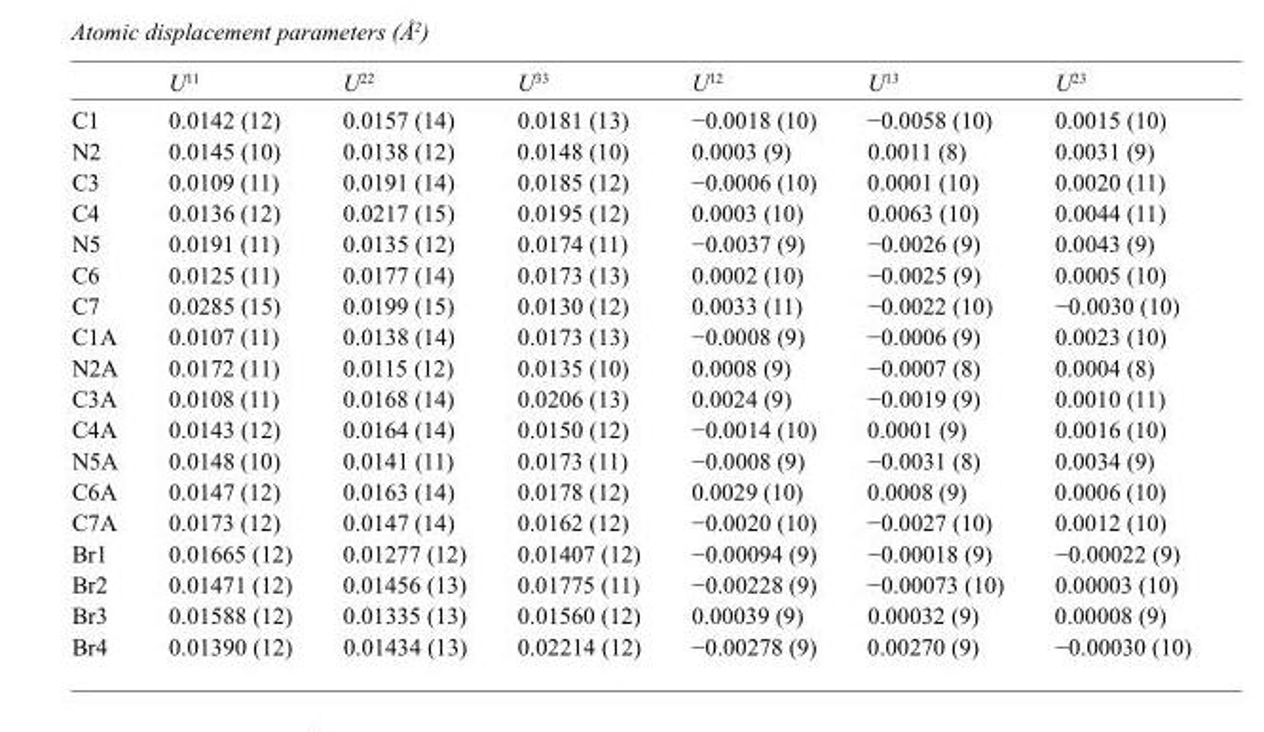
<table><thead><tr><td></td><td>U<sup>11</sup></td><td>U<sup>22</sup></td><td>U<sup>33</sup></td><td>U<sup>12</sup></td><td>U<sup>13</sup></td><td>U<sup>23</sup></td></tr></thead><tbody><tr><td>C1</td><td>0.0142 (12)</td><td>0.0157 (14)</td><td>0.0181 (13)</td><td>−0.0018 (10)</td><td>−0.0058 (10)</td><td>0.0015 (10)</td></tr><tr><td>N2</td><td>0.0145 (10)</td><td>0.0138 (12)</td><td>0.0148 (10)</td><td>0.0003 (9)</td><td>0.0011 (8)</td><td>0.0031 (9)</td></tr><tr><td>C3</td><td>0.0109 (11)</td><td>0.0191 (14)</td><td>0.0185 (12)</td><td>−0.0006 (10)</td><td>0.0001 (10)</td><td>0.0020 (11)</td></tr><tr><td>C4</td><td>0.0136 (12)</td><td>0.0217 (15)</td><td>0.0195 (12)</td><td>0.0003 (10)</td><td>0.0063 (10)</td><td>0.0044 (11)</td></tr><tr><td>N5</td><td>0.0191 (11)</td><td>0.0135 (12)</td><td>0.0174 (11)</td><td>−0.0037 (9)</td><td>−0.0026 (9)</td><td>0.0043 (9)</td></tr><tr><td>C6</td><td>0.0125 (11)</td><td>0.0177 (14)</td><td>0.0173 (13)</td><td>0.0002 (10)</td><td>−0.0025 (9)</td><td>0.0005 (10)</td></tr><tr><td>C7</td><td>0.0285 (15)</td><td>0.0199 (15)</td><td>0.0130 (12)</td><td>0.0033 (11)</td><td>−0.0022 (10)</td><td>−0.0030 (10)</td></tr><tr><td>C1A</td><td>0.0107 (11)</td><td>0.0138 (14)</td><td>0.0173 (13)</td><td>−0.0008 (9)</td><td>−0.0006 (9)</td><td>0.0023 (10)</td></tr><tr><td>N2A</td><td>0.0172 (11)</td><td>0.0115 (12)</td><td>0.0135 (10)</td><td>0.0008 (9)</td><td>−0.0007 (8)</td><td>0.0004 (8)</td></tr><tr><td>C3A</td><td>0.0108 (11)</td><td>0.0168 (14)</td><td>0.0206 (13)</td><td>0.0024 (9)</td><td>−0.0019 (9)</td><td>0.0010 (11)</td></tr><tr><td>C4A</td><td>0.0143 (12)</td><td>0.0164 (14)</td><td>0.0150 (12)</td><td>−0.0014 (10)</td><td>0.0001 (9)</td><td>0.0016 (10)</td></tr><tr><td>N5A</td><td>0.0148 (10)</td><td>0.0141 (11)</td><td>0.0173 (11)</td><td>−0.0008 (9)</td><td>−0.0031 (8)</td><td>0.0034 (9)</td></tr><tr><td>C6A</td><td>0.0147 (12)</td><td>0.0163 (14)</td><td>0.0178 (12)</td><td>0.0029 (10)</td><td>0.0008 (9)</td><td>0.0006 (10)</td></tr><tr><td>C7A</td><td>0.0173 (12)</td><td>0.0147 (14)</td><td>0.0162 (12)</td><td>−0.0020 (10)</td><td>−0.0027 (10)</td><td>0.0012 (10)</td></tr><tr><td>Br1</td><td>0.01665 (12)</td><td>0.01277 (12)</td><td>0.01407 (12)</td><td>−0.00094 (9)</td><td>−0.00018 (9)</td><td>−0.00022 (9)</td></tr><tr><td>Br2</td><td>0.01471 (12)</td><td>0.01456 (13)</td><td>0.01775 (11)</td><td>−0.00228 (9)</td><td>−0.00073 (10)</td><td>0.00003 (10)</td></tr><tr><td>Br3</td><td>0.01588 (12)</td><td>0.01335 (13)</td><td>0.01560 (12)</td><td>0.00039 (9)</td><td>0.00032 (9)</td><td>0.00008 (9)</td></tr><tr><td>Br4</td><td>0.01390 (12)</td><td>0.01434 (13)</td><td>0.02214 (12)</td><td>−0.00278 (9)</td><td>0.00270 (9)</td><td>−0.00030 (10)</td></tr></tbody></table>